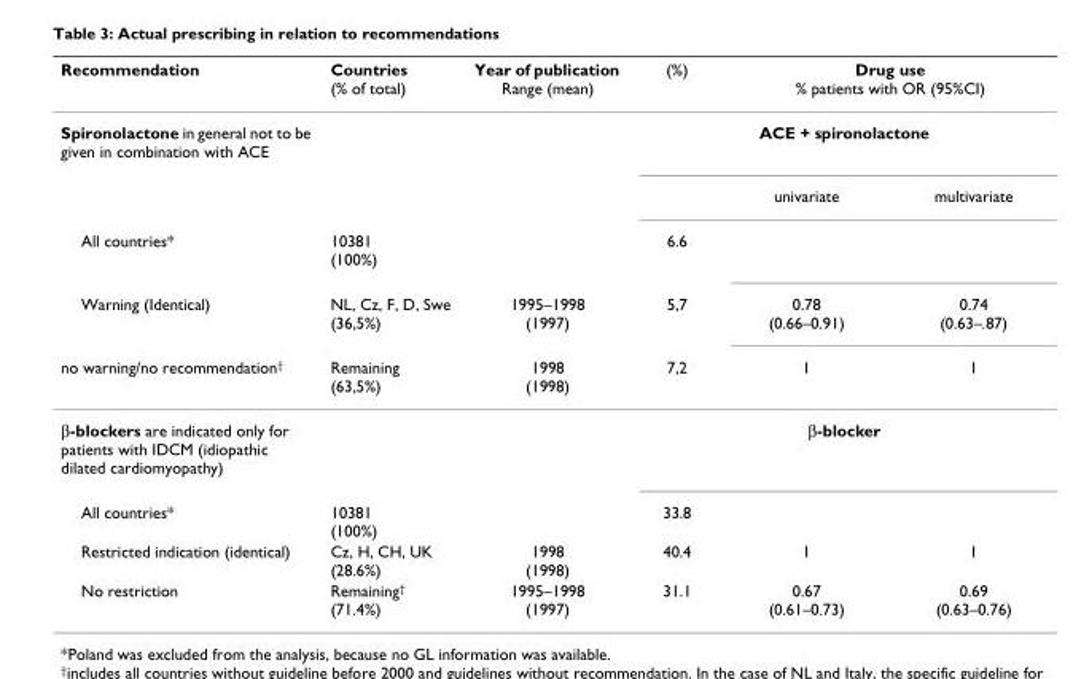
<table><thead><tr><td rowspan="3">Recommendation Spironolactone in general not to be given in combination with ACE</td><td rowspan="3">Countries (% of total)</td><td rowspan="3">Year of publication Range (mean)</td><td>(%)</td><td colspan="2">Drug use % patients with OR (95%CI)</td></tr><tr><td colspan="3">ACE + spironolactone</td></tr><tr><td></td><td>univariate</td><td>multivariate</td></tr></thead><tbody><tr><td>All countries*</td><td>10381 (100%)</td><td></td><td>6.6</td><td></td><td></td></tr><tr><td>Warning (Identical)</td><td>NL, Cz, F, D, Swe (36,5%)</td><td>1995–1998 (1997)</td><td>5,7</td><td>0.78 (0.66–0.91)</td><td>0.74 (0.63–.87)</td></tr><tr><td>no warning/no recommendation<sup>†</sup></td><td>Remaining (63,5%)</td><td>1998 (1998)</td><td>7,2</td><td>1</td><td>1</td></tr><tr><td>β-blockers are indicated only for patients with IDCM (idiopathic dilated cardiomyopathy)</td><td></td><td></td><td colspan="3">β-blocker</td></tr><tr><td>All countries*</td><td>10381 (100%)</td><td></td><td>33.8</td><td></td><td></td></tr><tr><td>Restricted indication (identical)</td><td>Cz, H, CH, UK (28.6%)</td><td>1998 (1998)</td><td>40.4</td><td>1</td><td>1</td></tr><tr><td>No restriction</td><td>Remaining<sup>†</sup> (71.4%)</td><td>1995–1998 (1997)</td><td>31.1</td><td>0.67 (0.61–0.73)</td><td>0.69 (0.63–0.76)</td></tr></tbody></table>